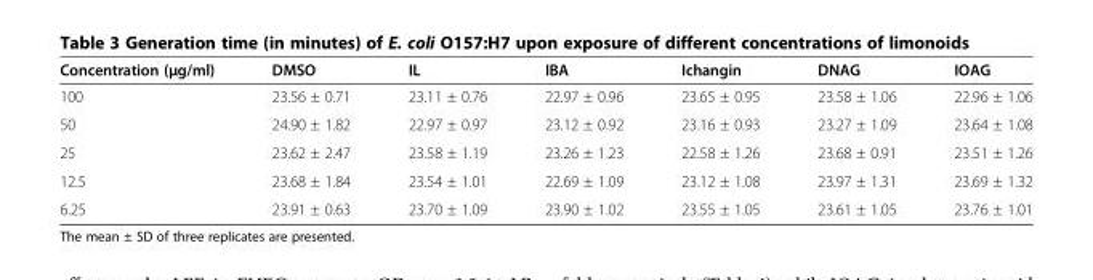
<table><thead><tr><td>Concentration (μg/ml)</td><td>DMSO</td><td>IL</td><td>IBA</td><td>Ichangin</td><td>DNAG</td><td>IOAG</td></tr></thead><tbody><tr><td>100</td><td>23.56 ± 0.71</td><td>23.11 ± 0.76</td><td>22.97 ± 0.96</td><td>23.65 ± 0.95</td><td>23.58 ± 1.06</td><td>22.96 ± 1.06</td></tr><tr><td>50</td><td>24.90 ± 1.82</td><td>22.97 ± 0.97</td><td>23.12 ± 0.92</td><td>23.16 ± 0.93</td><td>23.27 ± 1.09</td><td>23.64 ± 1.08</td></tr><tr><td>25</td><td>23.62 ± 2.47</td><td>23.58 ± 1.19</td><td>23.26 ± 1.23</td><td>22.58 ± 1.26</td><td>23.68 ± 0.91</td><td>23.51 ± 1.26</td></tr><tr><td>12.5</td><td>23.68 ± 1.84</td><td>23.54 ± 1.01</td><td>22.69 ± 1.09</td><td>23.12 ± 1.08</td><td>23.97 ± 1.31</td><td>23.69 ± 1.32</td></tr><tr><td>6.25</td><td>23.91 ± 0.63</td><td>23.70 ± 1.09</td><td>23.90 ± 1.02</td><td>23.55 ± 1.05</td><td>23.61 ± 1.05</td><td>23.76 ± 1.01</td></tr></tbody></table>